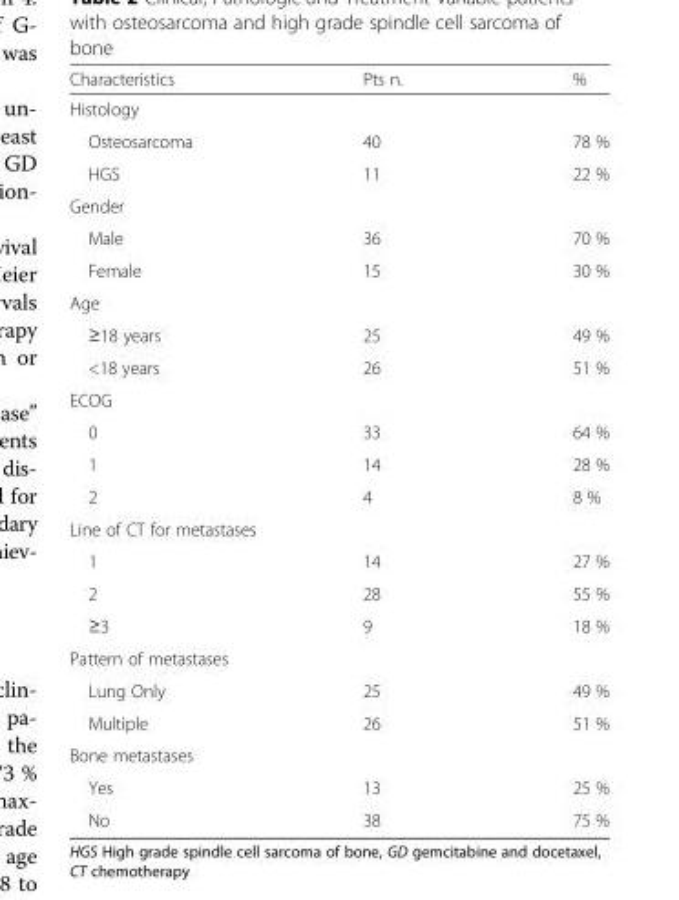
<table><thead><tr><td>Characteristics</td><td>Pts n.</td><td>%</td></tr></thead><tbody><tr><td colspan="3">Histology</td></tr><tr><td>Osteosarcoma</td><td>40</td><td>78 %</td></tr><tr><td>HGS</td><td>11</td><td>22 %</td></tr><tr><td colspan="3">Gender</td></tr><tr><td>Male</td><td>36</td><td>70 %</td></tr><tr><td>Female</td><td>15</td><td>30 %</td></tr><tr><td colspan="3">Age</td></tr><tr><td>≥18 years</td><td>25</td><td>49 %</td></tr><tr><td>&lt;18 years</td><td>26</td><td>51 %</td></tr><tr><td colspan="3">ECOG</td></tr><tr><td>0</td><td>33</td><td>64 %</td></tr><tr><td>1</td><td>14</td><td>28 %</td></tr><tr><td>2</td><td>4</td><td>8 %</td></tr><tr><td colspan="3">Line of CT for metastases</td></tr><tr><td>1</td><td>14</td><td>27 %</td></tr><tr><td>2</td><td>28</td><td>55 %</td></tr><tr><td>≥3</td><td>9</td><td>18 %</td></tr><tr><td colspan="3">Pattern of metastases</td></tr><tr><td>Lung Only</td><td>25</td><td>49 %</td></tr><tr><td>Multiple</td><td>26</td><td>51 %</td></tr><tr><td colspan="3">Bone metastases</td></tr><tr><td>Yes</td><td>13</td><td>25 %</td></tr><tr><td>No</td><td>38</td><td>75 %</td></tr></tbody></table>